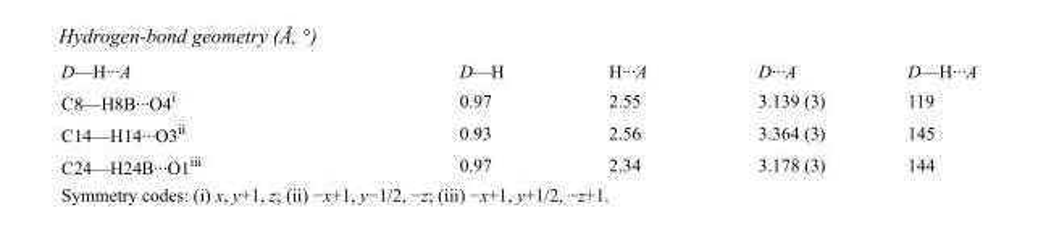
<table><tbody><tr><td>D—H···A</td><td>D—H</td><td>H···A</td><td>D···A</td><td>D—H···A</td></tr><tr><td>C8—H8B···O4<sup>i</sup></td><td>0.97</td><td>2.55</td><td>3.139 (3)</td><td>119</td></tr><tr><td>C14—H14···O3<sup>ii</sup></td><td>0.93</td><td>2.56</td><td>3.364 (3)</td><td>145</td></tr><tr><td>C24—H24B···O1<sup>iii</sup></td><td>0.97</td><td>2.34</td><td>3.178 (3)</td><td>144</td></tr></tbody></table>